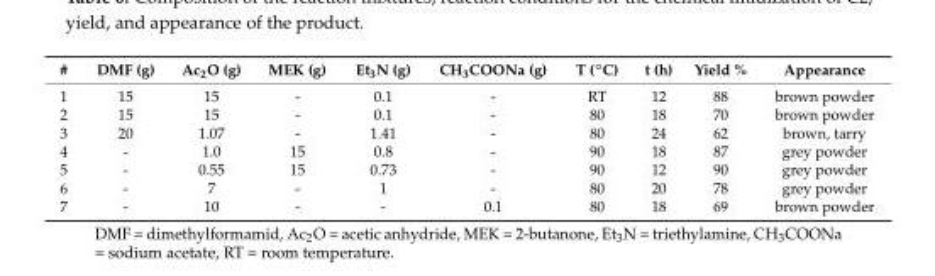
<table><thead><tr><td>#</td><td>DMF (g)</td><td>Ac2O (g)</td><td>MEK (g)</td><td>Et3N (g)</td><td>CH3COONa (g)</td><td>T (◦C)</td><td>t (h)</td><td>Yield %</td><td>Appearance</td></tr></thead><tbody><tr><td>1</td><td>15</td><td>15</td><td>-</td><td>0.1</td><td>-</td><td>RT</td><td>12</td><td>88</td><td>brown powder</td></tr><tr><td>2</td><td>15</td><td>15</td><td>-</td><td>0.1</td><td>-</td><td>80</td><td>18</td><td>70</td><td>brown powder</td></tr><tr><td>3</td><td>20</td><td>1.07</td><td>-</td><td>1.41</td><td>-</td><td>80</td><td>24</td><td>62</td><td>brown, tarry</td></tr><tr><td>4</td><td>-</td><td>1.0</td><td>15</td><td>0.8</td><td>-</td><td>90</td><td>18</td><td>87</td><td>grey powder</td></tr><tr><td>5</td><td>-</td><td>0.55</td><td>15</td><td>0.73</td><td>-</td><td>90</td><td>12</td><td>90</td><td>grey powder</td></tr><tr><td>6</td><td>-</td><td>7</td><td>-</td><td>1</td><td>-</td><td>80</td><td>20</td><td>78</td><td>grey powder</td></tr><tr><td>7</td><td>-</td><td>10</td><td>-</td><td>-</td><td>0.1</td><td>80</td><td>18</td><td>69</td><td>brown powder</td></tr></tbody></table>